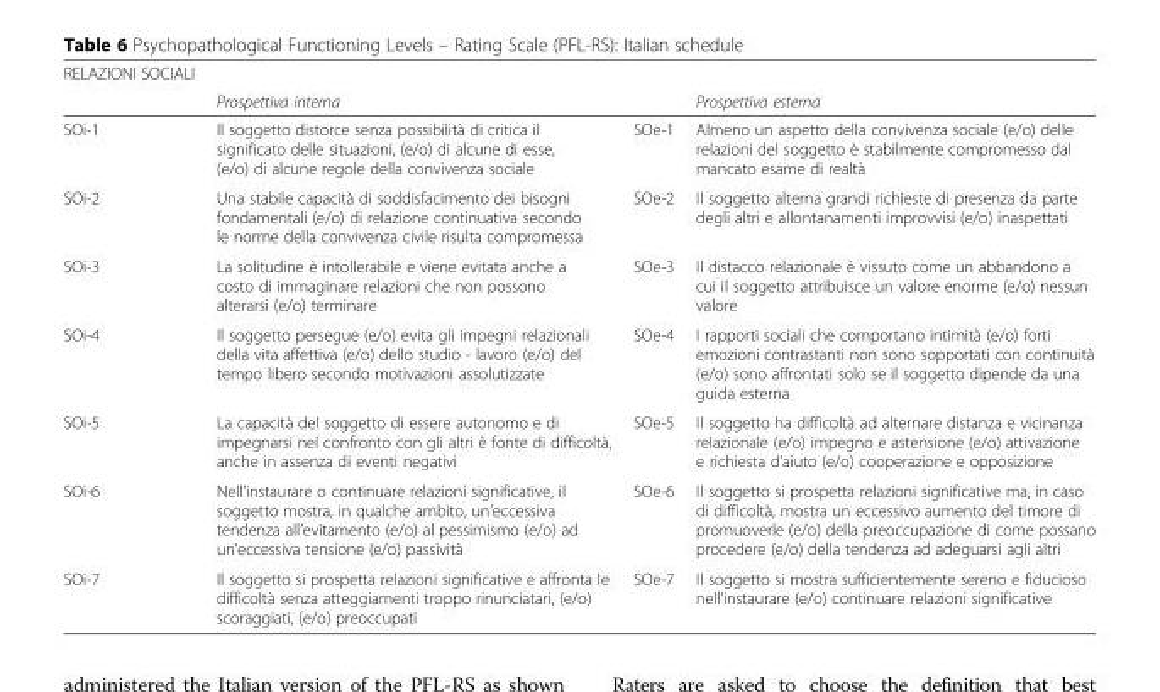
<table><thead><tr><td rowspan="2">RELAZIONI SOCIALI</td><td rowspan="2">Prospettiva interna</td><td rowspan="2"></td><td rowspan="2">Prospettiva esterna</td></tr><tr></tr></thead><tbody><tr><td>SOi-1</td><td>Il soggetto distorce senza possibilità di critica il significato delle situazioni, (e/o) di alcune di esse, (e/o) di alcune regole della convivenza sociale</td><td>SOe-1</td><td>Almeno un aspetto della convivenza sociale (e/o) delle relazioni del soggetto è stabilmente compromesso dal mancato esame di realtà</td></tr><tr><td>SOi-2</td><td>Una stabile capacità di soddisfacimento dei bisogni fondamentali (e/o) di relazione continuativa secondo le norme della convivenza civile risulta compromessa</td><td>SOe-2</td><td>Il soggetto alterna grandi richieste di presenza da parte degli altri e allontanamenti improvvisi (e/o) inaspettati</td></tr><tr><td>SOi-3</td><td>La solitudine è intollerabile e viene evitata anche a costo di immaginare relazioni che non possono alterarsi (e/o) terminare</td><td>SOe-3</td><td>Il distacco relazionale è vissuto come un abbandono a cui il soggetto attribuisce un valore enorme (e/o) nessun valore</td></tr><tr><td>SOi-4</td><td>Il soggetto persegue (e/o) evita gli impegni relazionali della vita affettiva (e/o) dello studio - lavoro (e/o) del tempo libero secondo motivazioni assolutizzate</td><td>SOe-4</td><td>I rapporti sociali che comportano intimità (e/o) forti emozioni contrastanti non sono sopportati con continuità (e/o) sono affrontati solo se il soggetto dipende da una guida esterna</td></tr><tr><td>SOi-5</td><td>La capacità del soggetto di essere autonomo e di impegnarsi nel confronto con gli altri è fonte di difficoltà, anche in assenza di eventi negativi</td><td>SOe-5</td><td>Il soggetto ha difficoltà ad alternare distanza e vicinanza relazionale (e/o) impegno e astensione (e/o) attivazione e richiesta d’aiuto (e/o) cooperazione e opposizione</td></tr><tr><td>SOi-6</td><td>Nell’instaurare o continuare relazioni significative, il soggetto mostra, in qualche ambito, un’eccessiva tendenza all’evitamento (e/o) al pessimismo (e/o) ad un’eccessiva tensione (e/o) passività</td><td>SOe-6</td><td>Il soggetto si prospetta relazioni significative ma, in caso di difficoltà, mostra un eccessivo aumento del timore di promuoverle (e/o) della preoccupazione di come possano procedere (e/o) della tendenza ad adeguarsi agli altri</td></tr><tr><td>SOi-7</td><td>Il soggetto si prospetta relazioni significative e affronta le difficoltà senza atteggiamenti troppo rinunciatari, (e/o) scoraggiati, (e/o) preoccupati</td><td>SOe-7</td><td>Il soggetto si mostra sufficientemente sereno e fiducioso nell’instaurare (e/o) continuare relazioni significative</td></tr></tbody></table>